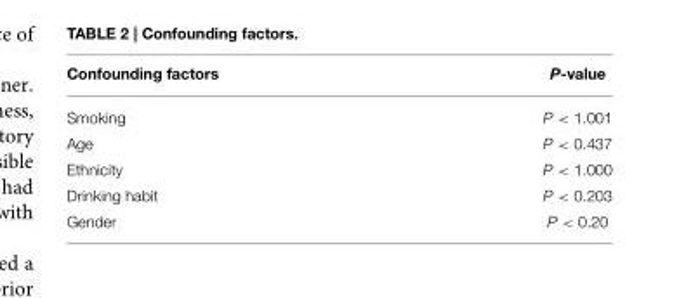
<table><thead><tr><td>Confounding factors</td><td>P-value</td></tr></thead><tbody><tr><td>Smoking</td><td>P &lt; 1.001</td></tr><tr><td>Age</td><td>P &lt; 0.437</td></tr><tr><td>Ethnicity</td><td>P &lt; 1.000</td></tr><tr><td>Drinking habit</td><td>P &lt; 0.203</td></tr><tr><td>Gender</td><td>P &lt; 0.20</td></tr></tbody></table>